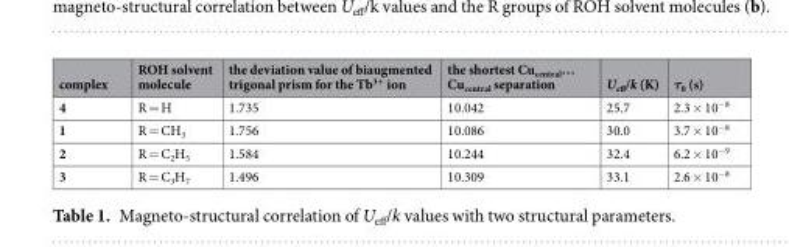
<table><thead><tr><td>complex</td><td>ROH solvent molecule</td><td>the deviation value of biaugmented trigonal prism for the Tb<sup>3+</sup> ion</td><td>the shortest Cu<sub>central</sub>… Cu<sub>central</sub> separation</td><td>U<sub>eff</sub>/k (K)</td><td>τ<sub>0</sub> (s)</td></tr></thead><tbody><tr><td>4</td><td>R = H</td><td>1.735</td><td>10.042</td><td>25.7</td><td>2.3 × 10<sup>−8</sup></td></tr><tr><td>1</td><td>R = CH<sub>3</sub></td><td>1.756</td><td>10.086</td><td>30.0</td><td>3.7 × 10<sup>−8</sup></td></tr><tr><td>2</td><td>R = C<sub>2</sub>H<sub>5</sub></td><td>1.584</td><td>10.244</td><td>32.4</td><td>6.2 × 10<sup>−9</sup></td></tr><tr><td>3</td><td>R = C<sub>3</sub>H<sub>7</sub></td><td>1.496</td><td>10.309</td><td>33.1</td><td>2.6 × 10<sup>−8</sup></td></tr></tbody></table>